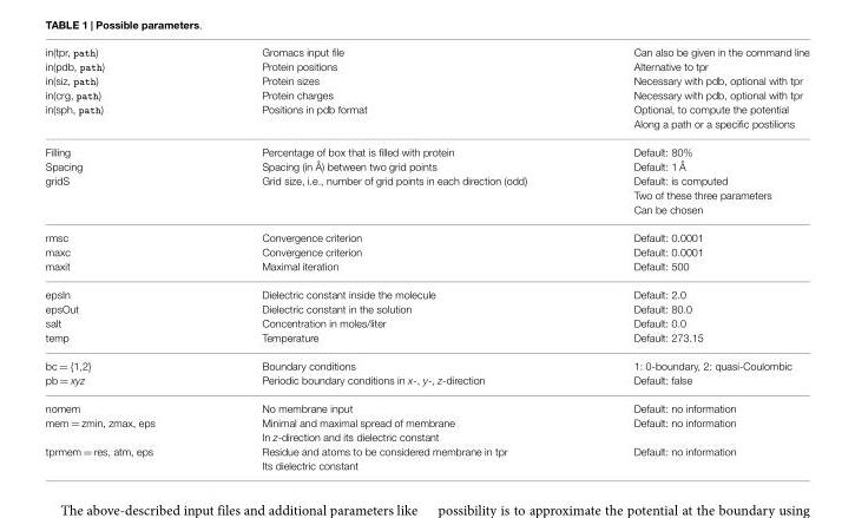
<table><tbody><tr><td>in(tpr, path)</td><td>Gromacs input file</td><td>Can also be given in the command line</td></tr><tr><td>in(pdb, path)</td><td>Protein positions</td><td>Alternative to tpr</td></tr><tr><td>in(siz, path)</td><td>Protein sizes</td><td>Necessary with pdb, optional with tpr</td></tr><tr><td>in(crg, path)</td><td>Protein charges</td><td>Necessary with pdb, optional with tpr</td></tr><tr><td rowspan="2">in(sph, path)</td><td>Positions in pdb format</td><td>Optional, to compute the potential</td></tr><tr><td></td><td>Along a path or a specific postilions</td></tr><tr><td>Filling</td><td>Percentage of box that is filled with protein</td><td>Default: 80%</td></tr><tr><td>Spacing</td><td>Spacing (in Å) between two grid points</td><td>Default: 1 Å</td></tr><tr><td rowspan="3">gridS</td><td>Grid size, i.e., number of grid points in each direction (odd)</td><td>Default: is computed</td></tr><tr><td></td><td>Two of these three parameters</td></tr><tr><td></td><td>Can be chosen</td></tr><tr><td>rmsc</td><td>Convergence criterion</td><td>Default: 0.0001</td></tr><tr><td>maxc</td><td>Convergence criterion</td><td>Default: 0.0001</td></tr><tr><td>maxit</td><td>Maximal iteration</td><td>Default: 500</td></tr><tr><td>epsIn</td><td>Dielectric constant inside the molecule</td><td>Default: 2.0</td></tr><tr><td>epsOut</td><td>Dielectric constant in the solution</td><td>Default: 80.0</td></tr><tr><td>salt</td><td>Concentration in moles/liter</td><td>Default: 0.0</td></tr><tr><td>temp</td><td>Temperature</td><td>Default: 273.15</td></tr><tr><td>bc = {1,2}</td><td>Boundary conditions</td><td>1: 0-boundary, 2: quasi-Coulombic</td></tr><tr><td>pb = xyz</td><td>Periodic boundary conditions in x-, y-, z-direction</td><td>Default: false</td></tr><tr><td>nomem</td><td>No membrane input</td><td>Default: no information</td></tr><tr><td rowspan="2">mem = zmin, zmax, eps</td><td>Minimal and maximal spread of membrane</td><td>Default: no information</td></tr><tr><td>In z-direction and its dielectric constant</td><td></td></tr><tr><td rowspan="2">tprmem = res, atm, eps</td><td>Residue and atoms to be considered membrane in tpr</td><td>Default: no information</td></tr><tr><td>Its dielectric constant</td><td></td></tr></tbody></table>